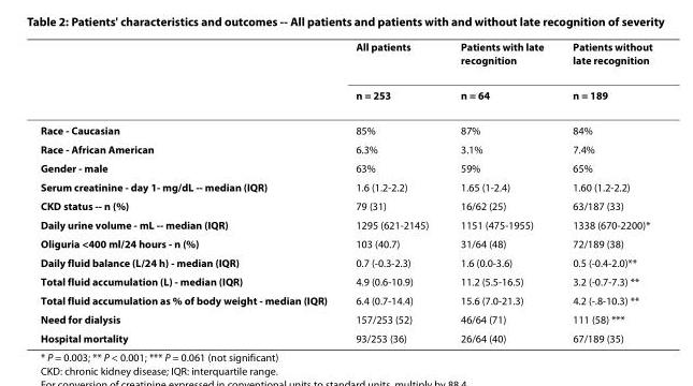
<table><thead><tr><td rowspan="2"></td><td rowspan="2">All patients n = 253</td><td rowspan="2">Patients with late recognition n = 64</td><td rowspan="2">Patients without late recognition n = 189</td></tr><tr></tr></thead><tbody><tr><td>Race - Caucasian</td><td>85%</td><td>87%</td><td>84%</td></tr><tr><td>Race - African American</td><td>6.3%</td><td>3.1%</td><td>7.4%</td></tr><tr><td>Gender - male</td><td>63%</td><td>59%</td><td>65%</td></tr><tr><td>Serum creatinine - day 1- mg/dL -- median (IQR)</td><td>1.6 (1.2-2.2)</td><td>1.65 (1-2.4)</td><td>1.60 (1.2-2.2)</td></tr><tr><td>CKD status -- n (%)</td><td>79 (31)</td><td>16/62 (25)</td><td>63/187 (33)</td></tr><tr><td>Daily urine volume - mL -- median (IQR)</td><td>1295 (621-2145)</td><td>1151 (475-1955)</td><td>1338 (670-2200)*</td></tr><tr><td>Oliguria &lt;400 ml/24 hours - n (%)</td><td>103 (40.7)</td><td>31/64 (48)</td><td>72/189 (38)</td></tr><tr><td>Daily fluid balance (L/24 h) - median (IQR)</td><td>0.7 (-0.3-2.3)</td><td>1.6 (0.0-3.6)</td><td>0.5 (-0.4-2.0)**</td></tr><tr><td>Total fluid accumulation (L) - median (IQR)</td><td>4.9 (0.6-10.9)</td><td>11.2 (5.5-16.5)</td><td>3.2 (-0.7-7.3) **</td></tr><tr><td>Total fluid accumulation as % of body weight - median (IQR)</td><td>6.4 (0.7-14.4)</td><td>15.6 (7.0-21.3)</td><td>4.2 (-.8-10.3) **</td></tr><tr><td>Need for dialysis</td><td>157/253 (52)</td><td>46/64 (71)</td><td>111 (58) ***</td></tr><tr><td>Hospital mortality</td><td>93/253 (36)</td><td>26/64 (40)</td><td>67/189 (35)</td></tr></tbody></table>